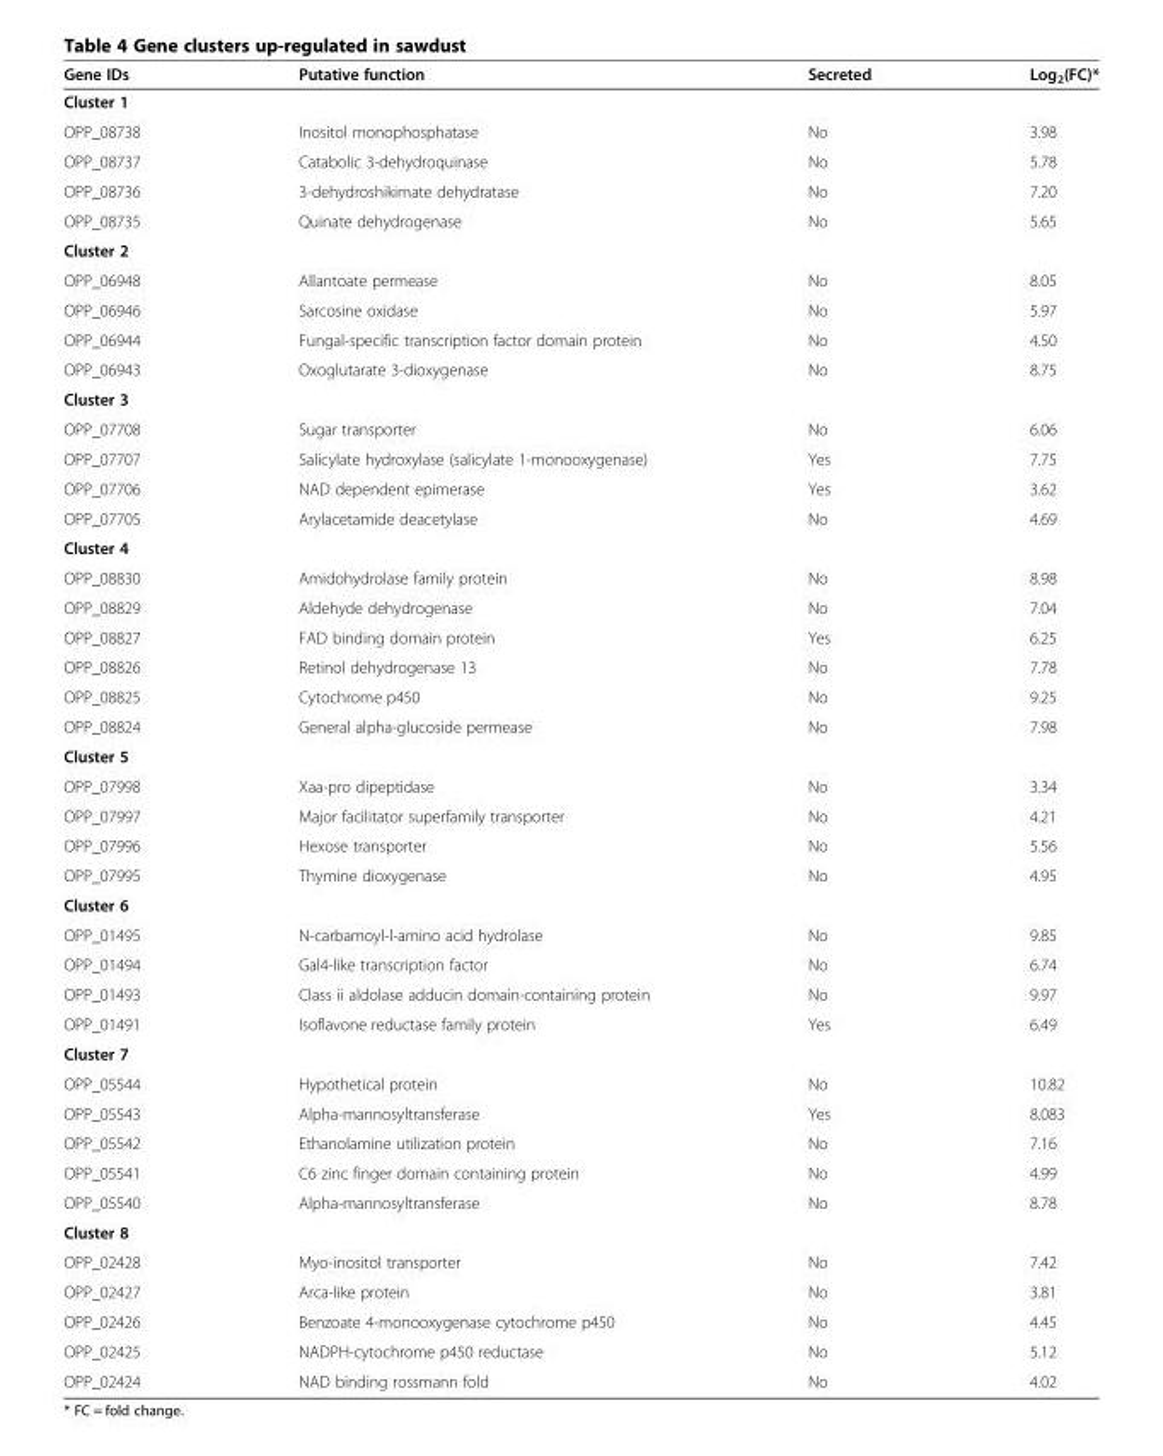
<table><thead><tr><td>Gene IDs</td><td>Putative function</td><td>Secreted</td><td>Log<sub>2</sub>(FC)*</td></tr></thead><tbody><tr><td colspan="4">Cluster 1</td></tr><tr><td>OPP_08738</td><td>Inositol monophosphatase</td><td>No</td><td>3.98</td></tr><tr><td>OPP_08737</td><td>Catabolic 3-dehydroquinase</td><td>No</td><td>5.78</td></tr><tr><td>OPP_08736</td><td>3-dehydroshikimate dehydratase</td><td>No</td><td>7.20</td></tr><tr><td>OPP_08735</td><td>Quinate dehydrogenase</td><td>No</td><td>5.65</td></tr><tr><td colspan="4">Cluster 2</td></tr><tr><td>OPP_06948</td><td>Allantoate permease</td><td>No</td><td>8.05</td></tr><tr><td>OPP_06946</td><td>Sarcosine oxidase</td><td>No</td><td>5.97</td></tr><tr><td>OPP_06944</td><td>Fungal-specific transcription factor domain protein</td><td>No</td><td>4.50</td></tr><tr><td>OPP_06943</td><td>Oxoglutarate 3-dioxygenase</td><td>No</td><td>8.75</td></tr><tr><td colspan="4">Cluster 3</td></tr><tr><td>OPP_07708</td><td>Sugar transporter</td><td>No</td><td>6.06</td></tr><tr><td>OPP_07707</td><td>Salicylate hydroxylase (salicylate 1-monooxygenase)</td><td>Yes</td><td>7.75</td></tr><tr><td>OPP_07706</td><td>NAD dependent epimerase</td><td>Yes</td><td>3.62</td></tr><tr><td>OPP_07705</td><td>Arylacetamide deacetylase</td><td>No</td><td>4.69</td></tr><tr><td colspan="4">Cluster 4</td></tr><tr><td>OPP_08830</td><td>Amidohydrolase family protein</td><td>No</td><td>8.98</td></tr><tr><td>OPP_08829</td><td>Aldehyde dehydrogenase</td><td>No</td><td>7.04</td></tr><tr><td>OPP_08827</td><td>FAD binding domain protein</td><td>Yes</td><td>6.25</td></tr><tr><td>OPP_08826</td><td>Retinol dehydrogenase 13</td><td>No</td><td>7.78</td></tr><tr><td>OPP_08825</td><td>Cytochrome p450</td><td>No</td><td>9.25</td></tr><tr><td>OPP_08824</td><td>General alpha-glucoside permease</td><td>No</td><td>7.98</td></tr><tr><td colspan="4">Cluster 5</td></tr><tr><td>OPP_07998</td><td>Xaa-pro dipeptidase</td><td>No</td><td>3.34</td></tr><tr><td>OPP_07997</td><td>Major facilitator superfamily transporter</td><td>No</td><td>4.21</td></tr><tr><td>OPP_07996</td><td>Hexose transporter</td><td>No</td><td>5.56</td></tr><tr><td>OPP_07995</td><td>Thymine dioxygenase</td><td>No</td><td>4.95</td></tr><tr><td colspan="4">Cluster 6</td></tr><tr><td>OPP_01495</td><td>N-carbamoyl-l-amino acid hydrolase</td><td>No</td><td>9.85</td></tr><tr><td>OPP_01494</td><td>Gal4-like transcription factor</td><td>No</td><td>6.74</td></tr><tr><td>OPP_01493</td><td>Class ii aldolase adducin domain-containing protein</td><td>No</td><td>9.97</td></tr><tr><td>OPP_01491</td><td>Isoflavone reductase family protein</td><td>Yes</td><td>6.49</td></tr><tr><td colspan="4">Cluster 7</td></tr><tr><td>OPP_05544</td><td>Hypothetical protein</td><td>No</td><td>10.82</td></tr><tr><td>OPP_05543</td><td>Alpha-mannosyltransferase</td><td>Yes</td><td>8.083</td></tr><tr><td>OPP_05542</td><td>Ethanolamine utilization protein</td><td>No</td><td>7.16</td></tr><tr><td>OPP_05541</td><td>C6 zinc finger domain containing protein</td><td>No</td><td>4.99</td></tr><tr><td>OPP_05540</td><td>Alpha-mannosyltransferase</td><td>No</td><td>8.78</td></tr><tr><td colspan="4">Cluster 8</td></tr><tr><td>OPP_02428</td><td>Myo-inositol transporter</td><td>No</td><td>7.42</td></tr><tr><td>OPP_02427</td><td>Arca-like protein</td><td>No</td><td>3.81</td></tr><tr><td>OPP_02426</td><td>Benzoate 4-monooxygenase cytochrome p450</td><td>No</td><td>4.45</td></tr><tr><td>OPP_02425</td><td>NADPH-cytochrome p450 reductase</td><td>No</td><td>5.12</td></tr><tr><td>OPP_02424</td><td>NAD binding rossmann fold</td><td>No</td><td>4.02</td></tr></tbody></table>